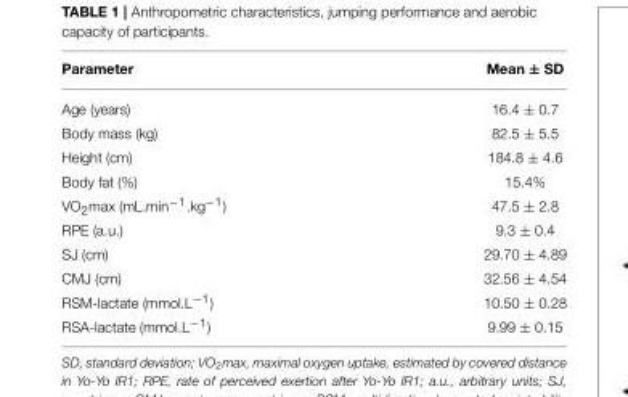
<table><thead><tr><td>Parameter</td><td>Mean ± SD</td></tr></thead><tbody><tr><td>Age (years)</td><td>16.4 ± 0.7</td></tr><tr><td>Body mass (kg)</td><td>82.5 ± 5.5</td></tr><tr><td>Height (cm)</td><td>184.8 ± 4.6</td></tr><tr><td>Body fat (%)</td><td>15.4%</td></tr><tr><td>VO<sub>2</sub>max (mL.min<sup>−1</sup>.kg<sup>−1</sup>)</td><td>47.5 ± 2.8</td></tr><tr><td>RPE (a.u.)</td><td>9.3 ± 0.4</td></tr><tr><td>SJ (cm)</td><td>29.70 ± 4.89</td></tr><tr><td>CMJ (cm)</td><td>32.56 ± 4.54</td></tr><tr><td>RSM-lactate (mmol.L<sup>−1</sup>)</td><td>10.50 ± 0.28</td></tr><tr><td>RSA-lactate (mmol.L<sup>−1</sup>)</td><td>9.99 ± 0.15</td></tr></tbody></table>